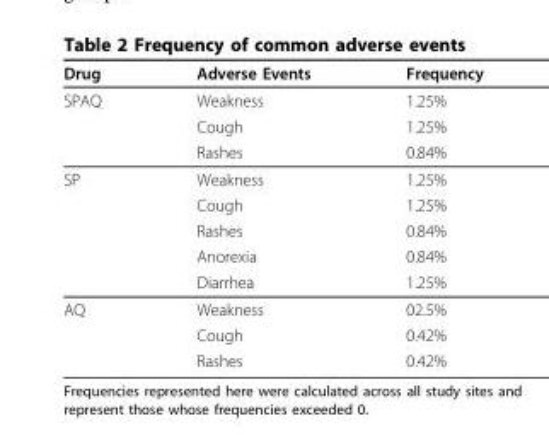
<table><thead><tr><td>Drug</td><td>Adverse Events</td><td>Frequency</td></tr></thead><tbody><tr><td rowspan="3">SPAQ</td><td>Weakness</td><td>1.25%</td></tr><tr><td>Cough</td><td>1.25%</td></tr><tr><td>Rashes</td><td>0.84%</td></tr><tr><td rowspan="5">SP</td><td>Weakness</td><td>1.25%</td></tr><tr><td>Cough</td><td>1.25%</td></tr><tr><td>Rashes</td><td>0.84%</td></tr><tr><td>Anorexia</td><td>0.84%</td></tr><tr><td>Diarrhea</td><td>1.25%</td></tr><tr><td rowspan="3">AQ</td><td>Weakness</td><td>02.5%</td></tr><tr><td>Cough</td><td>0.42%</td></tr><tr><td>Rashes</td><td>0.42%</td></tr></tbody></table>